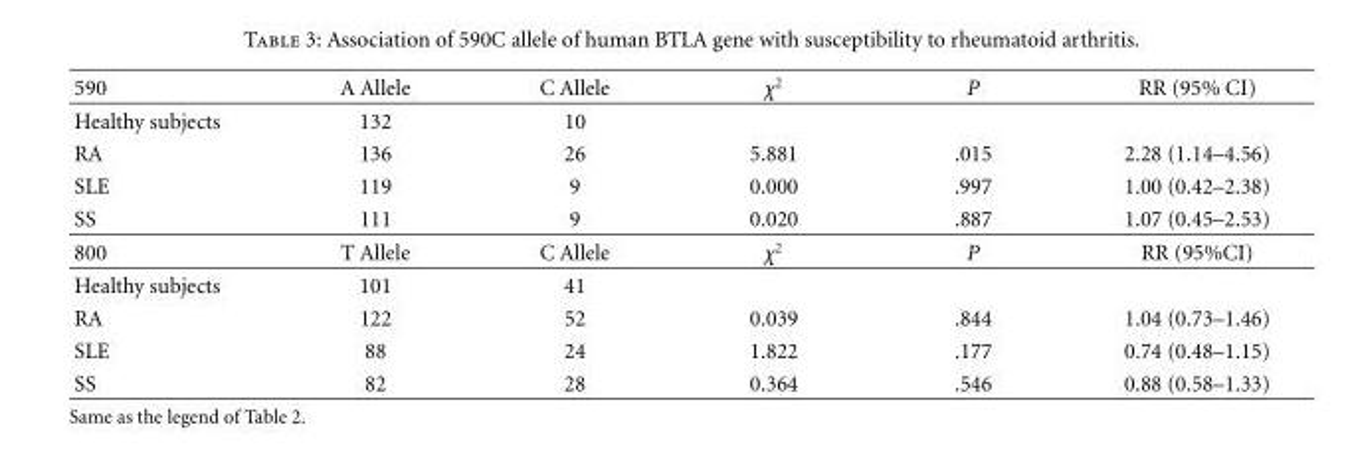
<table><thead><tr><td>590</td><td>A Allele</td><td>C Allele</td><td>χ<sup>2</sup></td><td>P</td><td>RR (95% CI)</td></tr></thead><tbody><tr><td>Healthy subjects</td><td>132</td><td>10</td><td></td><td></td><td></td></tr><tr><td>RA</td><td>136</td><td>26</td><td>5.881</td><td>.015</td><td>2.28 (1.14–4.56)</td></tr><tr><td>SLE</td><td>119</td><td>9</td><td>0.000</td><td>.997</td><td>1.00 (0.42–2.38)</td></tr><tr><td>SS</td><td>111</td><td>9</td><td>0.020</td><td>.887</td><td>1.07 (0.45–2.53)</td></tr><tr><td>800</td><td>T Allele</td><td>C Allele</td><td>χ<sup>2</sup></td><td>P</td><td>RR (95%CI)</td></tr><tr><td>Healthy subjects</td><td>101</td><td>41</td><td></td><td></td><td></td></tr><tr><td>RA</td><td>122</td><td>52</td><td>0.039</td><td>.844</td><td>1.04 (0.73–1.46)</td></tr><tr><td>SLE</td><td>88</td><td>24</td><td>1.822</td><td>.177</td><td>0.74 (0.48–1.15)</td></tr><tr><td>SS</td><td>82</td><td>28</td><td>0.364</td><td>.546</td><td>0.88 (0.58–1.33)</td></tr></tbody></table>